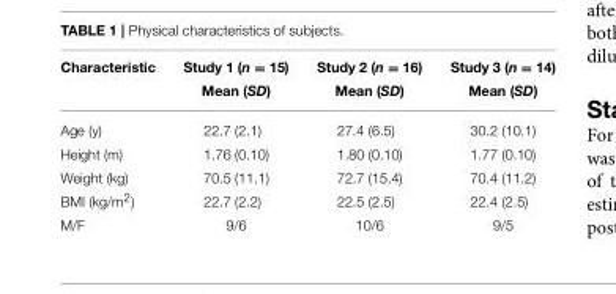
<table><thead><tr><td rowspan="2">Characteristic</td><td rowspan="2">Study 1 (n = 15) Mean (SD)</td><td rowspan="2">Study 2 (n = 16) Mean (SD)</td><td rowspan="2">Study 3 (n = 14) Mean (SD)</td></tr><tr></tr></thead><tbody><tr><td>Age (y)</td><td>22.7 (2.1)</td><td>27.4 (6.5)</td><td>30.2 (10.1)</td></tr><tr><td>Height (m)</td><td>1.76 (0.10)</td><td>1.80 (0.10)</td><td>1.77 (0.10)</td></tr><tr><td>Weight (kg)</td><td>70.5 (11.1)</td><td>72.7 (15.4)</td><td>70.4 (11.2)</td></tr><tr><td>BMI (kg/m<sup>2</sup>)</td><td>22.7 (2.2)</td><td>22.5 (2.5)</td><td>22.4 (2.5)</td></tr><tr><td>M/F</td><td>9/6</td><td>10/6</td><td>9/5</td></tr></tbody></table>